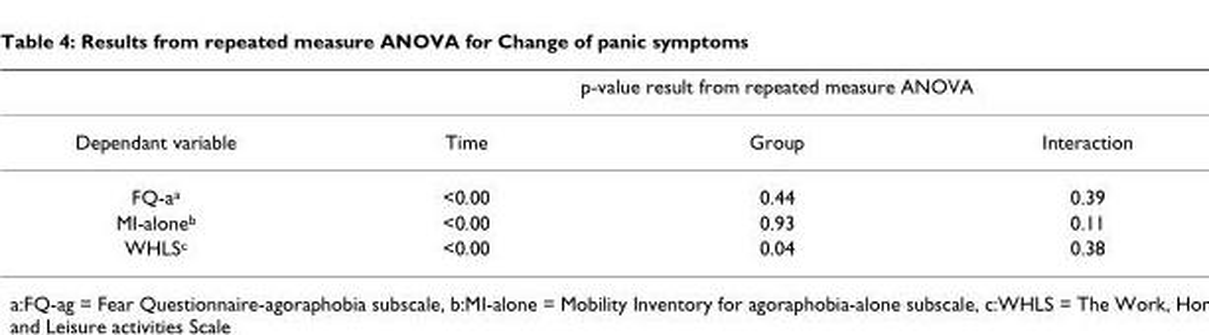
<table><thead><tr><td rowspan="2">Dependant variable</td><td colspan="3">p-value result from repeated measure ANOVA</td></tr><tr><td>Time</td><td>Group</td><td>Interaction</td></tr></thead><tbody><tr><td>FQ-a<sup>a</sup></td><td>&lt;0.00</td><td>0.44</td><td>0.39</td></tr><tr><td>MI-alone<sup>b</sup></td><td>&lt;0.00</td><td>0.93</td><td>0.11</td></tr><tr><td>WHLS<sup>c</sup></td><td>&lt;0.00</td><td>0.04</td><td>0.38</td></tr></tbody></table>